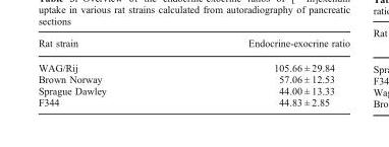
<table><thead><tr><td>Rat strain</td><td>Endocrine-exocrine ratio</td></tr></thead><tbody><tr><td>WAG/Rij</td><td>105.66 ± 29.84</td></tr><tr><td>Brown Norway</td><td>57.06 ± 12.53</td></tr><tr><td>Sprague Dawley</td><td>44.00 ± 13.33</td></tr><tr><td>F344</td><td>44.83 ± 2.85</td></tr></tbody></table>